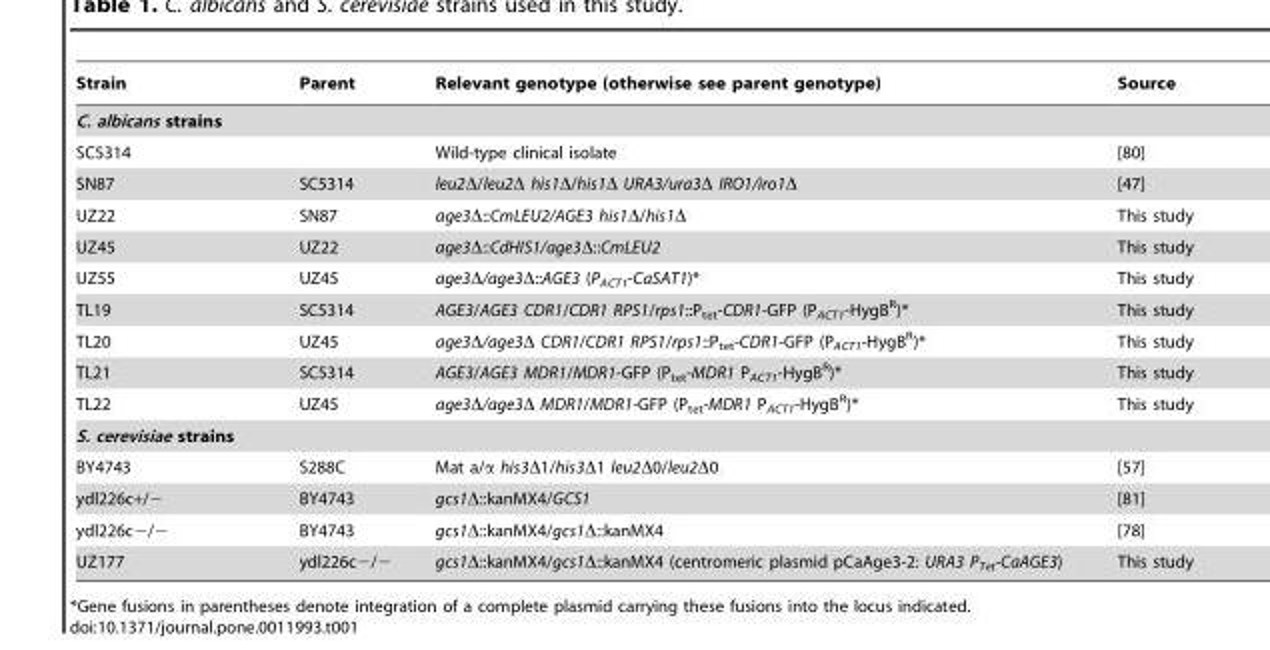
<table><thead><tr><td>Strain</td><td>Parent</td><td>Relevant genotype (otherwise see parent genotype)</td><td>Source</td></tr></thead><tbody><tr><td colspan="4">C. albicans strains</td></tr><tr><td>SC5314</td><td></td><td>Wild-type clinical isolate</td><td>[80]</td></tr><tr><td>SN87</td><td>SC5314</td><td>leu2Δ/leu2Δ his1Δ/his1Δ URA3/ura3Δ IRO1/iro1Δ</td><td>[47]</td></tr><tr><td>UZ22</td><td>SN87</td><td>age3Δ::CmLEU2/AGE3 his1Δ/his1Δ</td><td>This study</td></tr><tr><td>UZ45</td><td>UZ22</td><td>age3Δ::CdHIS1/age3Δ::CmLEU2</td><td>This study</td></tr><tr><td>UZ55</td><td>UZ45</td><td>age3Δ/age3Δ::AGE3 (P<sub>ACT1</sub>-CaSAT1)*</td><td>This study</td></tr><tr><td>TL19</td><td>SC5314</td><td>AGE3/AGE3 CDR1/CDR1 RPS1/rps1::P<sub>tet</sub>-CDR1-GFP (P<sub>ACT1</sub>-HygB<sup>R</sup>)*</td><td>This study</td></tr><tr><td>TL20</td><td>UZ45</td><td>age3Δ/age3Δ CDR1/CDR1 RPS1/rps1::P<sub>tet</sub>-CDR1-GFP (P<sub>ACT1</sub>-HygB<sup>R</sup>)*</td><td>This study</td></tr><tr><td>TL21</td><td>SC5314</td><td>AGE3/AGE3 MDR1/MDR1-GFP (P<sub>tet</sub>-MDR1 P<sub>ACT1</sub>-HygB<sup>R</sup>)*</td><td>This study</td></tr><tr><td>TL22</td><td>UZ45</td><td>age3Δ/age3Δ MDR1/MDR1-GFP (P<sub>tet</sub>-MDR1 P<sub>ACT1</sub>-HygB<sup>R</sup>)*</td><td>This study</td></tr><tr><td colspan="4">S. cerevisiae strains</td></tr><tr><td>BY4743</td><td>S288C</td><td>Mat a/α his3Δ1/his3Δ1 leu2Δ0/leu2Δ0</td><td>[57]</td></tr><tr><td>ydl226c+/−</td><td>BY4743</td><td>gcs1Δ::kanMX4/GCS1</td><td>[81]</td></tr><tr><td>ydl226c−/−</td><td>BY4743</td><td>gcs1Δ::kanMX4/gcs1Δ::kanMX4</td><td>[78]</td></tr><tr><td>UZ177</td><td>ydl226c−/−</td><td>gcs1Δ::kanMX4/gcs1Δ::kanMX4 (centromeric plasmid pCaAge3-2: URA3 P<sub>Tet</sub>-CaAGE3)</td><td>This study</td></tr></tbody></table>